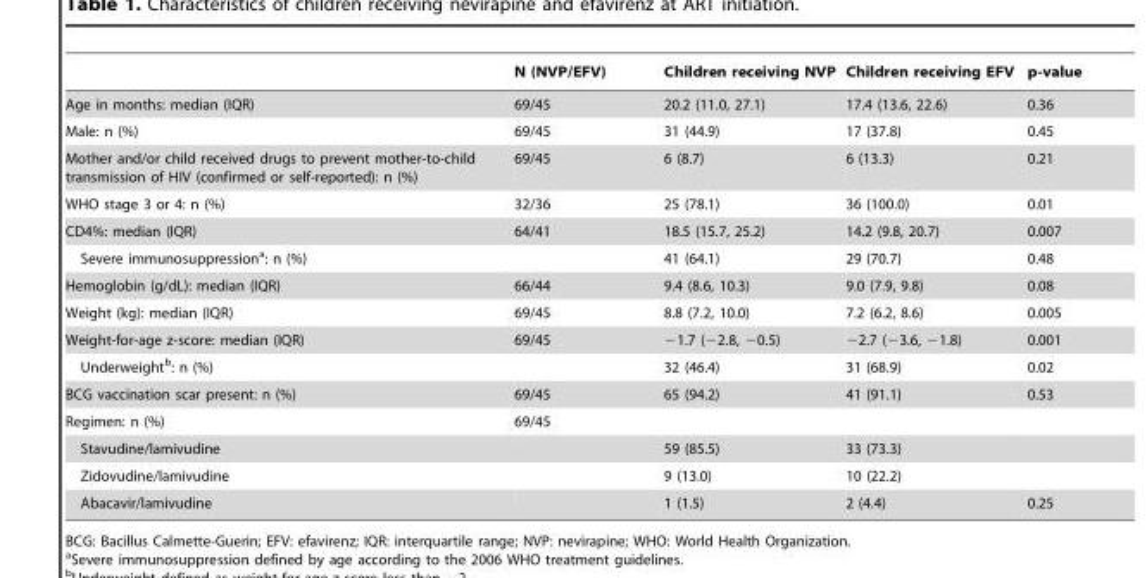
<table><thead><tr><td></td><td>N (NVP/EFV)</td><td>Children receiving NVP</td><td>Children receiving EFV</td><td>p-value</td></tr></thead><tbody><tr><td>Age in months: median (IQR)</td><td>69/45</td><td>20.2 (11.0, 27.1)</td><td>17.4 (13.6, 22.6)</td><td>0.36</td></tr><tr><td>Male: n (%)</td><td>69/45</td><td>31 (44.9)</td><td>17 (37.8)</td><td>0.45</td></tr><tr><td>Mother and/or child received drugs to prevent mother-to-child transmission of HIV (confirmed or self-reported): n (%)</td><td>69/45</td><td>6 (8.7)</td><td>6 (13.3)</td><td>0.21</td></tr><tr><td>WHO stage 3 or 4: n (%)</td><td>32/36</td><td>25 (78.1)</td><td>36 (100.0)</td><td>0.01</td></tr><tr><td>CD4%: median (IQR)</td><td>64/41</td><td>18.5 (15.7, 25.2)</td><td>14.2 (9.8, 20.7)</td><td>0.007</td></tr><tr><td>Severe immunosuppression<sup>a</sup>: n (%)</td><td></td><td>41 (64.1)</td><td>29 (70.7)</td><td>0.48</td></tr><tr><td>Hemoglobin (g/dL): median (IQR)</td><td>66/44</td><td>9.4 (8.6, 10.3)</td><td>9.0 (7.9, 9.8)</td><td>0.08</td></tr><tr><td>Weight (kg): median (IQR)</td><td>69/45</td><td>8.8 (7.2, 10.0)</td><td>7.2 (6.2, 8.6)</td><td>0.005</td></tr><tr><td>Weight-for-age z-score: median (IQR)</td><td>69/45</td><td>−1.7 (−2.8, −0.5)</td><td>−2.7 (−3.6, −1.8)</td><td>0.001</td></tr><tr><td>Underweight<sup>b</sup>: n (%)</td><td></td><td>32 (46.4)</td><td>31 (68.9)</td><td>0.02</td></tr><tr><td>BCG vaccination scar present: n (%)</td><td>69/45</td><td>65 (94.2)</td><td>41 (91.1)</td><td>0.53</td></tr><tr><td>Regimen: n (%)</td><td>69/45</td><td></td><td></td><td></td></tr><tr><td>Stavudine/lamivudine</td><td></td><td>59 (85.5)</td><td>33 (73.3)</td><td></td></tr><tr><td>Zidovudine/lamivudine</td><td></td><td>9 (13.0)</td><td>10 (22.2)</td><td></td></tr><tr><td>Abacavir/lamivudine</td><td></td><td>1 (1.5)</td><td>2 (4.4)</td><td>0.25</td></tr></tbody></table>